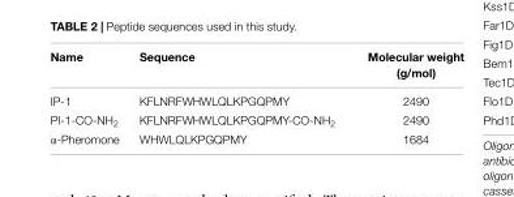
<table><thead><tr><td>Name</td><td>Sequence</td><td>Molecular weight (g/mol)</td></tr></thead><tbody><tr><td>IP-1</td><td>KFLNRFWHWLQLKPGQPMY</td><td>2490</td></tr><tr><td>PI-1-CO-NH<sub>2</sub></td><td>KFLNRFWHWLQLKPGQPMY-CO-NH<sub>2</sub></td><td>2490</td></tr><tr><td>α-Pheromone</td><td>WHWLQLKPGQPMY</td><td>1684</td></tr></tbody></table>